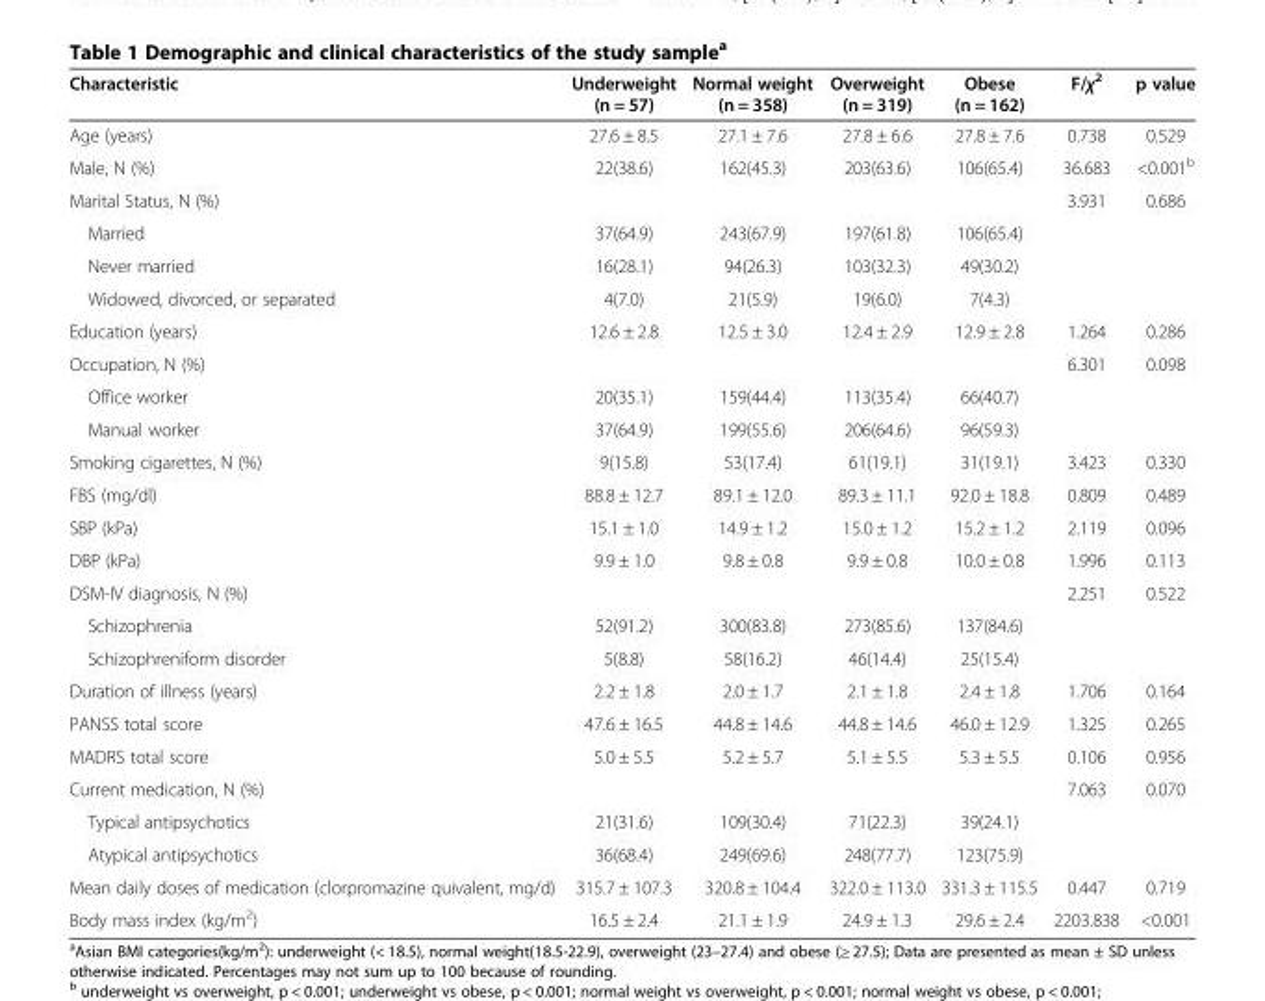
<table><thead><tr><td>Characteristic</td><td>Underweight (n = 57)</td><td>Normal weight (n = 358)</td><td>Overweight (n = 319)</td><td>Obese (n = 162)</td><td>F/χ<sup>2</sup></td><td>p value</td></tr></thead><tbody><tr><td>Age (years)</td><td>27.6 ± 8.5</td><td>27.1 ± 7.6</td><td>27.8 ± 6.6</td><td>27.8 ± 7.6</td><td>0.738</td><td>0.529</td></tr><tr><td>Male, N (%)</td><td>22(38.6)</td><td>162(45.3)</td><td>203(63.6)</td><td>106(65.4)</td><td>36.683</td><td>&lt;0.001<sup>b</sup></td></tr><tr><td>Marital Status, N (%)</td><td></td><td></td><td></td><td></td><td>3.931</td><td>0.686</td></tr><tr><td>Married</td><td>37(64.9)</td><td>243(67.9)</td><td>197(61.8)</td><td>106(65.4)</td><td></td><td></td></tr><tr><td>Never married</td><td>16(28.1)</td><td>94(26.3)</td><td>103(32.3)</td><td>49(30.2)</td><td></td><td></td></tr><tr><td>Widowed, divorced, or separated</td><td>4(7.0)</td><td>21(5.9)</td><td>19(6.0)</td><td>7(4.3)</td><td></td><td></td></tr><tr><td>Education (years)</td><td>12.6 ± 2.8</td><td>12.5 ± 3.0</td><td>12.4 ± 2.9</td><td>12.9 ± 2.8</td><td>1.264</td><td>0.286</td></tr><tr><td>Occupation, N (%)</td><td></td><td></td><td></td><td></td><td>6.301</td><td>0.098</td></tr><tr><td>Office worker</td><td>20(35.1)</td><td>159(44.4)</td><td>113(35.4)</td><td>66(40.7)</td><td></td><td></td></tr><tr><td>Manual worker</td><td>37(64.9)</td><td>199(55.6)</td><td>206(64.6)</td><td>96(59.3)</td><td></td><td></td></tr><tr><td>Smoking cigarettes, N (%)</td><td>9(15.8)</td><td>53(17.4)</td><td>61(19.1)</td><td>31(19.1)</td><td>3.423</td><td>0.330</td></tr><tr><td>FBS (mg/dl)</td><td>88.8 ± 12.7</td><td>89.1 ± 12.0</td><td>89.3 ± 11.1</td><td>92.0 ± 18.8</td><td>0.809</td><td>0.489</td></tr><tr><td>SBP (kPa)</td><td>15.1 ± 1.0</td><td>14.9 ± 1.2</td><td>15.0 ± 1.2</td><td>15.2 ± 1.2</td><td>2.119</td><td>0.096</td></tr><tr><td>DBP (kPa)</td><td>9.9 ± 1.0</td><td>9.8 ± 0.8</td><td>9.9 ± 0.8</td><td>10.0 ± 0.8</td><td>1.996</td><td>0.113</td></tr><tr><td>DSM-IV diagnosis, N (%)</td><td></td><td></td><td></td><td></td><td>2.251</td><td>0.522</td></tr><tr><td>Schizophrenia</td><td>52(91.2)</td><td>300(83.8)</td><td>273(85.6)</td><td>137(84.6)</td><td></td><td></td></tr><tr><td>Schizophreniform disorder</td><td>5(8.8)</td><td>58(16.2)</td><td>46(14.4)</td><td>25(15.4)</td><td></td><td></td></tr><tr><td>Duration of illness (years)</td><td>2.2 ± 1.8</td><td>2.0 ± 1.7</td><td>2.1 ± 1.8</td><td>2.4 ± 1.8</td><td>1.706</td><td>0.164</td></tr><tr><td>PANSS total score</td><td>47.6 ± 16.5</td><td>44.8 ± 14.6</td><td>44.8 ± 14.6</td><td>46.0 ± 12.9</td><td>1.325</td><td>0.265</td></tr><tr><td>MADRS total score</td><td>5.0 ± 5.5</td><td>5.2 ± 5.7</td><td>5.1 ± 5.5</td><td>5.3 ± 5.5</td><td>0.106</td><td>0.956</td></tr><tr><td>Current medication, N (%)</td><td></td><td></td><td></td><td></td><td>7.063</td><td>0.070</td></tr><tr><td>Typical antipsychotics</td><td>21(31.6)</td><td>109(30.4)</td><td>71(22.3)</td><td>39(24.1)</td><td></td><td></td></tr><tr><td>Atypical antipsychotics</td><td>36(68.4)</td><td>249(69.6)</td><td>248(77.7)</td><td>123(75.9)</td><td></td><td></td></tr><tr><td>Mean daily doses of medication (clorpromazine quivalent, mg/d)</td><td>315.7 ± 107.3</td><td>320.8 ± 104.4</td><td>322.0 ± 113.0</td><td>331.3 ± 115.5</td><td>0.447</td><td>0.719</td></tr><tr><td>Body mass index (kg/m<sup>2</sup>)</td><td>16.5 ± 2.4</td><td>21.1 ± 1.9</td><td>24.9 ± 1.3</td><td>29.6 ± 2.4</td><td>2203.838</td><td>&lt;0.001</td></tr></tbody></table>